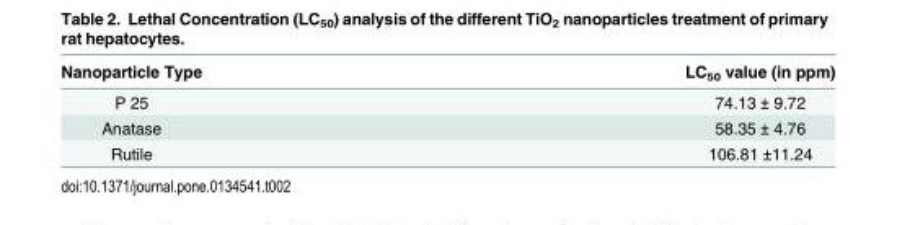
<table><thead><tr><td>Nanoparticle Type</td><td>LC<sub>50</sub> value (in ppm)</td></tr></thead><tbody><tr><td>P 25</td><td>74.13 ± 9.72</td></tr><tr><td>Anatase</td><td>58.35 ± 4.76</td></tr><tr><td>Rutile</td><td>106.81 ±11.24</td></tr></tbody></table>